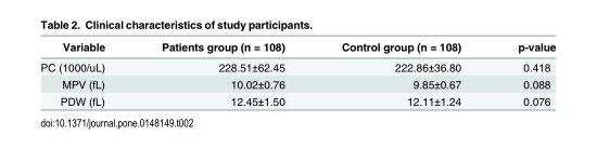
<table><thead><tr><td>Variable</td><td>Patients group (n = 108)</td><td>Control group (n = 108)</td><td>p-value</td></tr></thead><tbody><tr><td>PC (1000/uL)</td><td>228.51±62.45</td><td>222.86±36.80</td><td>0.418</td></tr><tr><td>MPV (fL)</td><td>10.02±0.76</td><td>9.85±0.67</td><td>0.088</td></tr><tr><td>PDW (fL)</td><td>12.45±1.50</td><td>12.11±1.24</td><td>0.076</td></tr></tbody></table>